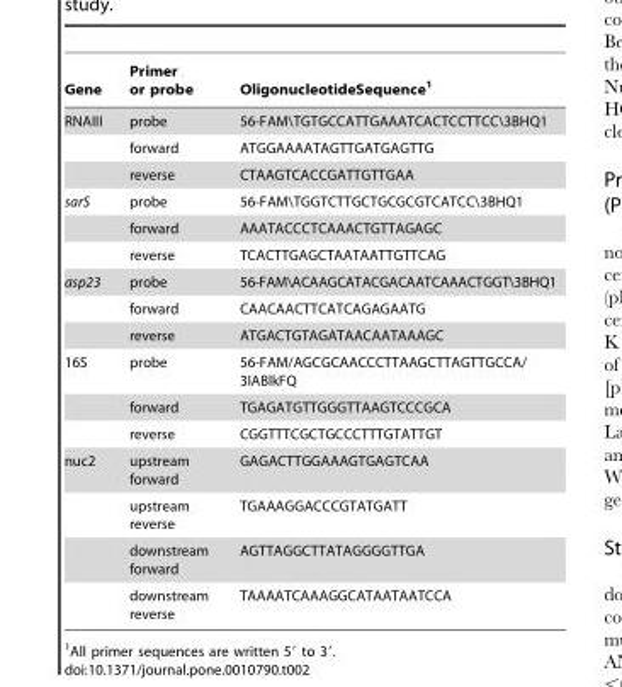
<table><thead><tr><td>Gene</td><td>Primer or probe</td><td>OligonucleotideSequence<sup>1</sup></td></tr></thead><tbody><tr><td rowspan="3">RNAIII</td><td>probe</td><td>56-FAM\TGTGCCATTGAAATCACTCCTTCC\3BHQ1</td></tr><tr><td>forward</td><td>ATGGAAAATAGTTGATGAGTTG</td></tr><tr><td>reverse</td><td>CTAAGTCACCGATTGTTGAA</td></tr><tr><td rowspan="3">sarS</td><td>probe</td><td>56-FAM\TGGTCTTGCTGCGCGTCATCC\3BHQ1</td></tr><tr><td>forward</td><td>AAATACCCTCAAACTGTTAGAGC</td></tr><tr><td>reverse</td><td>TCACTTGAGCTAATAATTGTTCAG</td></tr><tr><td rowspan="3">asp23</td><td>probe</td><td>56-FAM\ACAAGCATACGACAATCAAACTGGT\3BHQ1</td></tr><tr><td>forward</td><td>CAACAACTTCATCAGAGAATG</td></tr><tr><td>reverse</td><td>ATGACTGTAGATAACAATAAAGC</td></tr><tr><td rowspan="3">16S</td><td>probe</td><td>56-FAM/AGCGCAACCCTTAAGCTTAGTTGCCA/ 3IABlkFQ</td></tr><tr><td>forward</td><td>TGAGATGTTGGGTTAAGTCCCGCA</td></tr><tr><td>reverse</td><td>CGGTTTCGCTGCCCTTTGTATTGT</td></tr><tr><td rowspan="4">nuc2</td><td>upstream forward</td><td>GAGACTTGGAAAGTGAGTCAA</td></tr><tr><td>upstream reverse</td><td>TGAAAGGACCCGTATGATT</td></tr><tr><td>downstream forward</td><td>AGTTAGGCTTATAGGGGTTGA</td></tr><tr><td>downstream reverse</td><td>TAAAATCAAAGGCATAATAATCCA</td></tr></tbody></table>